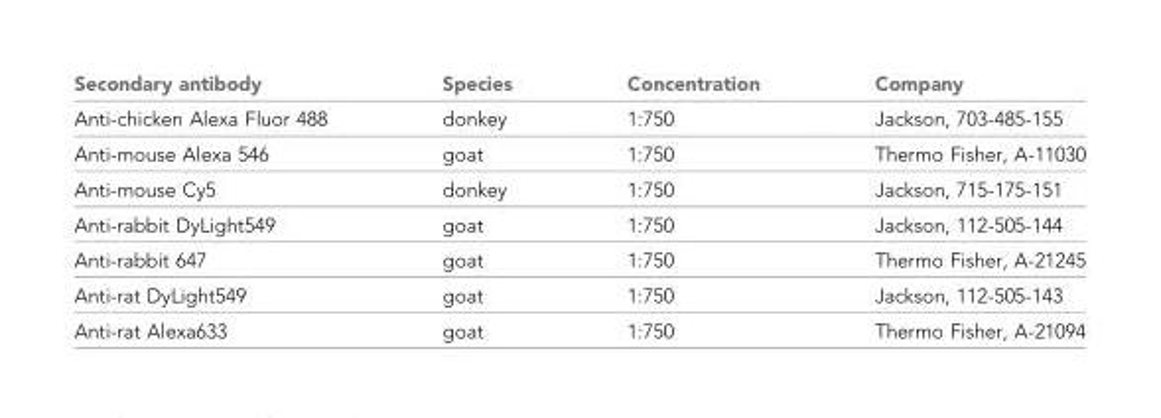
<table><thead><tr><td>Secondary antibody</td><td>Species</td><td>Concentration</td><td>Company</td></tr></thead><tbody><tr><td>Anti-chicken Alexa Fluor 488</td><td>donkey</td><td>1:750</td><td>Jackson, 703-485-155</td></tr><tr><td>Anti-mouse Alexa 546</td><td>goat</td><td>1:750</td><td>Thermo Fisher, A-11030</td></tr><tr><td>Anti-mouse Cy5</td><td>donkey</td><td>1:750</td><td>Jackson, 715-175-151</td></tr><tr><td>Anti-rabbit DyLight549</td><td>goat</td><td>1:750</td><td>Jackson, 112-505-144</td></tr><tr><td>Anti-rabbit 647</td><td>goat</td><td>1:750</td><td>Thermo Fisher, A-21245</td></tr><tr><td>Anti-rat DyLight549</td><td>goat</td><td>1:750</td><td>Jackson, 112-505-143</td></tr><tr><td>Anti-rat Alexa633</td><td>goat</td><td>1:750</td><td>Thermo Fisher, A-21094</td></tr></tbody></table>